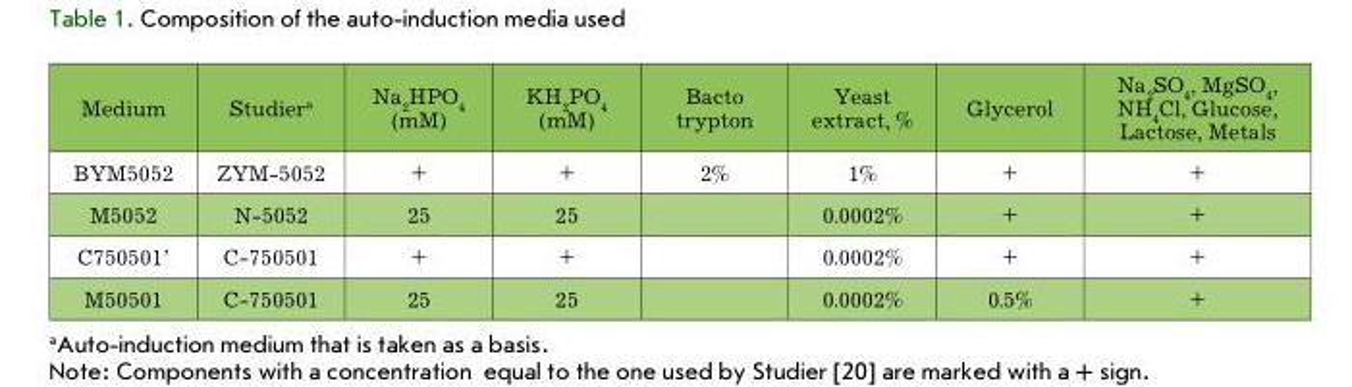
<table><thead><tr><td>Medium</td><td>Studier<sup>a</sup></td><td>Na<sub>2</sub>HPO<sub>4</sub> (mM)</td><td>KH<sub>2</sub>PO<sub>4</sub> (mM)</td><td>Bacto trypton</td><td>Yeast extract, %</td><td>Glycerol</td><td>Na<sub>2</sub>SO<sub>4</sub>, MgSO<sub>4</sub>, NH<sub>4</sub>Cl, Glucose, Lactose, Metals</td></tr></thead><tbody><tr><td>BYM5052</td><td>ZYM-5052</td><td>+</td><td>+</td><td>2%</td><td>1%</td><td>+</td><td>+</td></tr><tr><td>М5052</td><td>N-5052</td><td>25</td><td>25</td><td></td><td>0.0002%</td><td>+</td><td>+</td></tr><tr><td>C750501’</td><td>C-750501</td><td>+</td><td>+</td><td></td><td>0.0002%</td><td>+</td><td>+</td></tr><tr><td>M50501</td><td>C-750501</td><td>25</td><td>25</td><td></td><td>0.0002%</td><td>0.5%</td><td>+</td></tr></tbody></table>